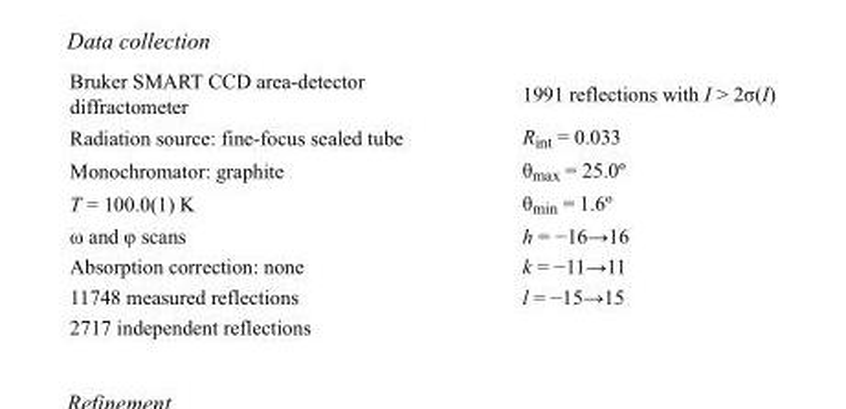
<table><tbody><tr><td>Bruker SMART CCD area-detector diffractometer</td><td>1991 reflections with I &gt; 2σ(I)</td></tr><tr><td>Radiation source: fine-focus sealed tube</td><td>R<sub>int</sub> = 0.033</td></tr><tr><td>Monochromator: graphite</td><td>θ<sub>max</sub> = 25.0º</td></tr><tr><td>T = 100.0(1) K</td><td>θ<sub>min</sub> = 1.6º</td></tr><tr><td>ω and φ scans</td><td>h = −16→16</td></tr><tr><td>Absorption correction: none</td><td>k = −11→11</td></tr><tr><td>11748 measured reflections</td><td>l = −15→15</td></tr><tr><td>2717 independent reflections</td><td></td></tr></tbody></table>